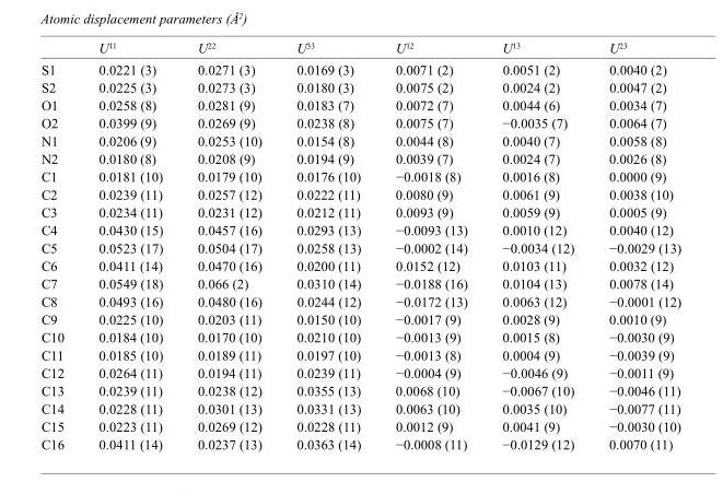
<table><thead><tr><td></td><td>U<sup>11</sup></td><td>U<sup>22</sup></td><td>U<sup>33</sup></td><td>U<sup>12</sup></td><td>U<sup>13</sup></td><td>U<sup>23</sup></td></tr></thead><tbody><tr><td>S1</td><td>0.0221 (3)</td><td>0.0271 (3)</td><td>0.0169 (3)</td><td>0.0071 (2)</td><td>0.0051 (2)</td><td>0.0040 (2)</td></tr><tr><td>S2</td><td>0.0225 (3)</td><td>0.0273 (3)</td><td>0.0180 (3)</td><td>0.0075 (2)</td><td>0.0024 (2)</td><td>0.0047 (2)</td></tr><tr><td>O1</td><td>0.0258 (8)</td><td>0.0281 (9)</td><td>0.0183 (7)</td><td>0.0072 (7)</td><td>0.0044 (6)</td><td>0.0034 (7)</td></tr><tr><td>O2</td><td>0.0399 (9)</td><td>0.0269 (9)</td><td>0.0238 (8)</td><td>0.0075 (7)</td><td>−0.0035 (7)</td><td>0.0064 (7)</td></tr><tr><td>N1</td><td>0.0206 (9)</td><td>0.0253 (10)</td><td>0.0154 (8)</td><td>0.0044 (8)</td><td>0.0040 (7)</td><td>0.0058 (8)</td></tr><tr><td>N2</td><td>0.0180 (8)</td><td>0.0208 (9)</td><td>0.0194 (9)</td><td>0.0039 (7)</td><td>0.0024 (7)</td><td>0.0026 (8)</td></tr><tr><td>C1</td><td>0.0181 (10)</td><td>0.0179 (10)</td><td>0.0176 (10)</td><td>−0.0018 (8)</td><td>0.0016 (8)</td><td>0.0000 (9)</td></tr><tr><td>C2</td><td>0.0239 (11)</td><td>0.0257 (12)</td><td>0.0222 (11)</td><td>0.0080 (9)</td><td>0.0061 (9)</td><td>0.0038 (10)</td></tr><tr><td>C3</td><td>0.0234 (11)</td><td>0.0231 (12)</td><td>0.0212 (11)</td><td>0.0093 (9)</td><td>0.0059 (9)</td><td>0.0005 (9)</td></tr><tr><td>C4</td><td>0.0430 (15)</td><td>0.0457 (16)</td><td>0.0293 (13)</td><td>−0.0093 (13)</td><td>0.0010 (12)</td><td>0.0040 (12)</td></tr><tr><td>C5</td><td>0.0523 (17)</td><td>0.0504 (17)</td><td>0.0258 (13)</td><td>−0.0002 (14)</td><td>−0.0034 (12)</td><td>−0.0029 (13)</td></tr><tr><td>C6</td><td>0.0411 (14)</td><td>0.0470 (16)</td><td>0.0200 (11)</td><td>0.0152 (12)</td><td>0.0103 (11)</td><td>0.0032 (12)</td></tr><tr><td>C7</td><td>0.0549 (18)</td><td>0.066 (2)</td><td>0.0310 (14)</td><td>−0.0188 (16)</td><td>0.0104 (13)</td><td>0.0078 (14)</td></tr><tr><td>C8</td><td>0.0493 (16)</td><td>0.0480 (16)</td><td>0.0244 (12)</td><td>−0.0172 (13)</td><td>0.0063 (12)</td><td>−0.0001 (12)</td></tr><tr><td>C9</td><td>0.0225 (10)</td><td>0.0203 (11)</td><td>0.0150 (10)</td><td>−0.0017 (9)</td><td>0.0028 (9)</td><td>0.0010 (9)</td></tr><tr><td>C10</td><td>0.0184 (10)</td><td>0.0170 (10)</td><td>0.0210 (10)</td><td>−0.0013 (9)</td><td>0.0015 (8)</td><td>−0.0030 (9)</td></tr><tr><td>C11</td><td>0.0185 (10)</td><td>0.0189 (11)</td><td>0.0197 (10)</td><td>−0.0013 (8)</td><td>0.0004 (9)</td><td>−0.0039 (9)</td></tr><tr><td>C12</td><td>0.0264 (11)</td><td>0.0194 (11)</td><td>0.0239 (11)</td><td>−0.0004 (9)</td><td>−0.0046 (9)</td><td>−0.0011 (9)</td></tr><tr><td>C13</td><td>0.0239 (11)</td><td>0.0238 (12)</td><td>0.0355 (13)</td><td>0.0068 (10)</td><td>−0.0067 (10)</td><td>−0.0046 (11)</td></tr><tr><td>C14</td><td>0.0228 (11)</td><td>0.0301 (13)</td><td>0.0331 (13)</td><td>0.0063 (10)</td><td>0.0035 (10)</td><td>−0.0077 (11)</td></tr><tr><td>C15</td><td>0.0223 (11)</td><td>0.0269 (12)</td><td>0.0228 (11)</td><td>0.0012 (9)</td><td>0.0041 (9)</td><td>−0.0030 (10)</td></tr><tr><td>C16</td><td>0.0411 (14)</td><td>0.0237 (13)</td><td>0.0363 (14)</td><td>−0.0008 (11)</td><td>−0.0129 (12)</td><td>0.0070 (11)</td></tr></tbody></table>